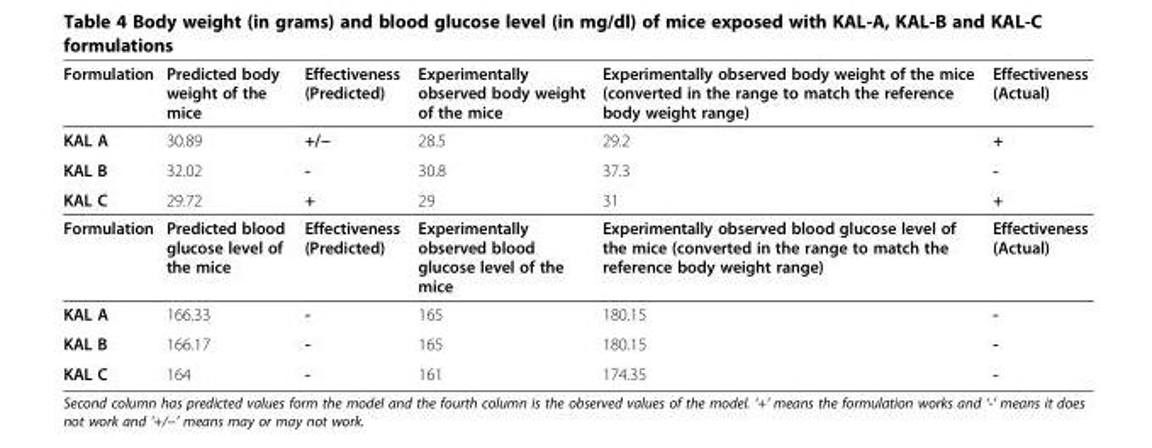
<table><tbody><tr><td>Formulation</td><td>Predicted body weight of the mice</td><td>Effectiveness (Predicted)</td><td>Experimentally observed body weight of the mice</td><td>Experimentally observed body weight of the mice (converted in the range to match the reference body weight range)</td><td>Effectiveness (Actual)</td></tr><tr><td>KAL A</td><td>30.89</td><td>+/−</td><td>28.5</td><td>29.2</td><td>+</td></tr><tr><td>KAL B</td><td>32.02</td><td>-</td><td>30.8</td><td>37.3</td><td>-</td></tr><tr><td>KAL C</td><td>29.72</td><td>+</td><td>29</td><td>31</td><td>+</td></tr><tr><td>Formulation</td><td>Predicted blood glucose level of the mice</td><td>Effectiveness (Predicted)</td><td>Experimentally observed blood glucose level of the mice</td><td>Experimentally observed blood glucose level of the mice (converted in the range to match the reference body weight range)</td><td>Effectiveness (Actual)</td></tr><tr><td>KAL A</td><td>166.33</td><td>-</td><td>165</td><td>180.15</td><td>-</td></tr><tr><td>KAL B</td><td>166.17</td><td>-</td><td>165</td><td>180.15</td><td>-</td></tr><tr><td>KAL C</td><td>164</td><td>-</td><td>161</td><td>174.35</td><td>-</td></tr></tbody></table>